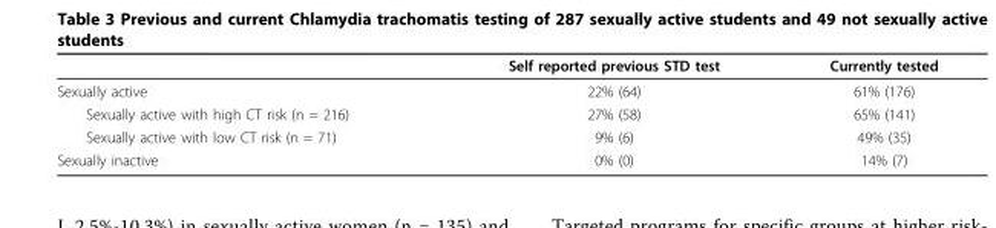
<table><thead><tr><td></td><td>Self reported previous STD test</td><td>Currently tested</td></tr></thead><tbody><tr><td>Sexually active</td><td>22% (64)</td><td>61% (176)</td></tr><tr><td>Sexually active with high CT risk (n = 216)</td><td>27% (58)</td><td>65% (141)</td></tr><tr><td>Sexually active with low CT risk (n = 71)</td><td>9% (6)</td><td>49% (35)</td></tr><tr><td>Sexually inactive</td><td>0% (0)</td><td>14% (7)</td></tr></tbody></table>